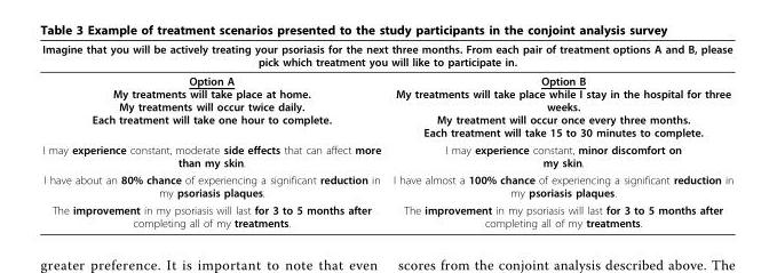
<table><thead><tr><td colspan="2">Imagine that you will be actively treating your psoriasis for the next three months. From each pair of treatment options A and B, please pick which treatment you will like to participate in.</td></tr><tr><td>Option A My treatments will take place at home. My treatments will occur twice daily. Each treatment will take one hour to complete.</td><td>Option B My treatments will take place while I stay in the hospital for three weeks. My treatment will occur once every three months. Each treatment will take 15 to 30 minutes to complete.</td></tr></thead><tbody><tr><td>I may experience constant, moderate side effects that can affect more than my skin.</td><td>I may experience constant, minor discomfort on my skin.</td></tr><tr><td>I have about an 80% chance of experiencing a significant reduction in my psoriasis plaques.</td><td>I have almost a 100% chance of experiencing a significant reduction in my psoriasis plaques.</td></tr><tr><td>The improvement in my psoriasis will last for 3 to 5 months after completing all of my treatments.</td><td>The improvement in my psoriasis will last for 3 to 5 months after completing all of my treatments.</td></tr></tbody></table>